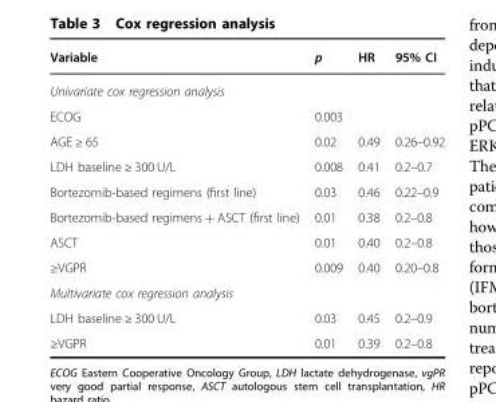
<table><thead><tr><td>Variable</td><td>p</td><td>HR</td><td>95% CI</td></tr></thead><tbody><tr><td colspan="4">Univariate cox regression analysis</td></tr><tr><td>ECOG</td><td>0.003</td><td></td><td></td></tr><tr><td>AGE ≥ 65</td><td>0.02</td><td>0.49</td><td>0.26–0.92</td></tr><tr><td>LDH baseline ≥ 300 U/L</td><td>0.008</td><td>0.41</td><td>0.2–0.7</td></tr><tr><td>Bortezomib-based regimens (first line)</td><td>0.03</td><td>0.46</td><td>0.22–0.9</td></tr><tr><td>Bortezomib-based regimens + ASCT (first line)</td><td>0.01</td><td>0.38</td><td>0.2–0.8</td></tr><tr><td>ASCT</td><td>0.01</td><td>0.40</td><td>0.2–0.8</td></tr><tr><td>≥VGPR</td><td>0.009</td><td>0.40</td><td>0.20–0.8</td></tr><tr><td colspan="4">Multivariate cox regression analysis</td></tr><tr><td>LDH baseline ≥ 300 U/L</td><td>0.03</td><td>0.45</td><td>0.2–0.9</td></tr><tr><td>≥VGPR</td><td>0.01</td><td>0.39</td><td>0.2–0.8</td></tr></tbody></table>